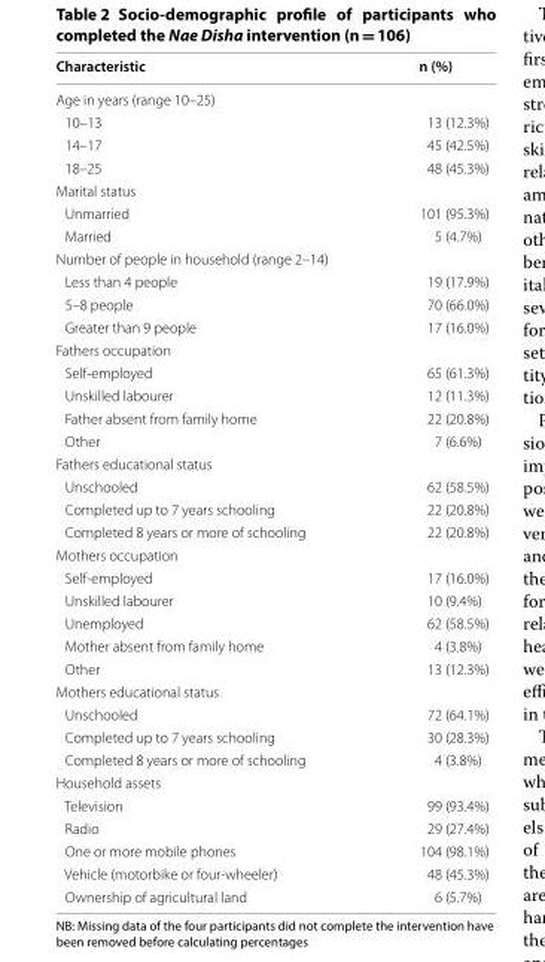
<table><thead><tr><td>Characteristic</td><td>n (%)</td></tr></thead><tbody><tr><td colspan="2">Age in years (range 10–25)</td></tr><tr><td>10–13</td><td>13 (12.3%)</td></tr><tr><td>14–17</td><td>45 (42.5%)</td></tr><tr><td>18–25</td><td>48 (45.3%)</td></tr><tr><td colspan="2">Marital status</td></tr><tr><td>Unmarried</td><td>101 (95.3%)</td></tr><tr><td>Married</td><td>5 (4.7%)</td></tr><tr><td colspan="2">Number of people in household (range 2–14)</td></tr><tr><td>Less than 4 people</td><td>19 (17.9%)</td></tr><tr><td>5–8 people</td><td>70 (66.0%)</td></tr><tr><td>Greater than 9 people</td><td>17 (16.0%)</td></tr><tr><td colspan="2">Fathers occupation</td></tr><tr><td>Self-employed</td><td>65 (61.3%)</td></tr><tr><td>Unskilled labourer</td><td>12 (11.3%)</td></tr><tr><td>Father absent from family home</td><td>22 (20.8%)</td></tr><tr><td>Other</td><td>7 (6.6%)</td></tr><tr><td colspan="2">Fathers educational status</td></tr><tr><td>Unschooled</td><td>62 (58.5%)</td></tr><tr><td>Completed up to 7 years schooling</td><td>22 (20.8%)</td></tr><tr><td>Completed 8 years or more of schooling</td><td>22 (20.8%)</td></tr><tr><td colspan="2">Mothers occupation</td></tr><tr><td>Self-employed</td><td>17 (16.0%)</td></tr><tr><td>Unskilled labourer</td><td>10 (9.4%)</td></tr><tr><td>Unemployed</td><td>62 (58.5%)</td></tr><tr><td>Mother absent from family home</td><td>4 (3.8%)</td></tr><tr><td>Other</td><td>13 (12.3%)</td></tr><tr><td colspan="2">Mothers educational status</td></tr><tr><td>Unschooled</td><td>72 (64.1%)</td></tr><tr><td>Completed up to 7 years schooling</td><td>30 (28.3%)</td></tr><tr><td>Completed 8 years or more of schooling</td><td>4 (3.8%)</td></tr><tr><td colspan="2">Household assets</td></tr><tr><td>Television</td><td>99 (93.4%)</td></tr><tr><td>Radio</td><td>29 (27.4%)</td></tr><tr><td>One or more mobile phones</td><td>104 (98.1%)</td></tr><tr><td>Vehicle (motorbike or four-wheeler)</td><td>48 (45.3%)</td></tr><tr><td>Ownership of agricultural land</td><td>6 (5.7%)</td></tr></tbody></table>